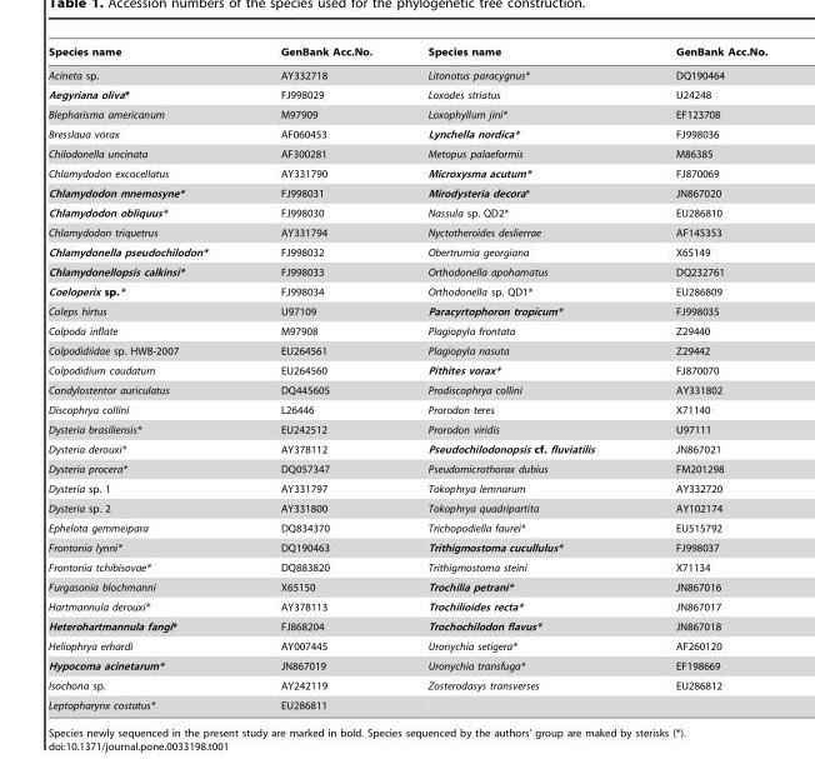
<table><thead><tr><td>Species name</td><td>GenBank Acc.No.</td><td>Species name</td><td>GenBank Acc.No.</td></tr></thead><tbody><tr><td>Acineta sp.</td><td>AY332718</td><td>Litonotus paracygnus*</td><td>DQ190464</td></tr><tr><td>Aegyriana oliva*</td><td>FJ998029</td><td>Loxodes striatus</td><td>U24248</td></tr><tr><td>Blepharisma americanum</td><td>M97909</td><td>Loxophyllum jini*</td><td>EF123708</td></tr><tr><td>Bresslaua vorax</td><td>AF060453</td><td>Lynchella nordica*</td><td>FJ998036</td></tr><tr><td>Chilodonella uncinata</td><td>AF300281</td><td>Metopus palaeformis</td><td>M86385</td></tr><tr><td>Chlamydodon excocellatus</td><td>AY331790</td><td>Microxysma acutum*</td><td>FJ870069</td></tr><tr><td>Chlamydodon mnemosyne*</td><td>FJ998031</td><td>Mirodysteria decora*</td><td>JN867020</td></tr><tr><td>Chlamydodon obliquus*</td><td>FJ998030</td><td>Nassula sp. QD2*</td><td>EU286810</td></tr><tr><td>Chlamydodon triquetrus</td><td>AY331794</td><td>Nyctotheroides deslierrae</td><td>AF145353</td></tr><tr><td>Chlamydonella pseudochilodon*</td><td>FJ998032</td><td>Obertrumia georgiana</td><td>X65149</td></tr><tr><td>Chlamydonellopsis calkinsi*</td><td>FJ998033</td><td>Orthodonella apohamatus</td><td>DQ232761</td></tr><tr><td>Coeloperix sp.*</td><td>FJ998034</td><td>Orthodonella sp. QD1*</td><td>EU286809</td></tr><tr><td>Coleps hirtus</td><td>U97109</td><td>Paracyrtophoron tropicum*</td><td>FJ998035</td></tr><tr><td>Colpoda inflate</td><td>M97908</td><td>Plagiopyla frontata</td><td>Z29440</td></tr><tr><td>Colpodidiidae sp. HWB-2007</td><td>EU264561</td><td>Plagiopyla nasuta</td><td>Z29442</td></tr><tr><td>Colpodidium caudatum</td><td>EU264560</td><td>Pithites vorax*</td><td>FJ870070</td></tr><tr><td>Condylostentor auriculatus</td><td>DQ445605</td><td>Prodiscophrya collini</td><td>AY331802</td></tr><tr><td>Discophrya collini</td><td>L26446</td><td>Prorodon teres</td><td>X71140</td></tr><tr><td>Dysteria brasiliensis*</td><td>EU242512</td><td>Prorodon viridis</td><td>U97111</td></tr><tr><td>Dysteria derouxi*</td><td>AY378112</td><td>Pseudochilodonopsis cf. fluviatilis</td><td>JN867021</td></tr><tr><td>Dysteria procera*</td><td>DQ057347</td><td>Pseudomicrothorax dubius</td><td>FM201298</td></tr><tr><td>Dysteria sp. 1</td><td>AY331797</td><td>Tokophrya lemnarum</td><td>AY332720</td></tr><tr><td>Dysteria sp. 2</td><td>AY331800</td><td>Tokophrya quadripartita</td><td>AY102174</td></tr><tr><td>Ephelota gemmeipara</td><td>DQ834370</td><td>Trichopodiella faurei*</td><td>EU515792</td></tr><tr><td>Frontonia lynni*</td><td>DQ190463</td><td>Trithigmostoma cucullulus*</td><td>FJ998037</td></tr><tr><td>Frontonia tchibisovae*</td><td>DQ883820</td><td>Trithigmostoma steini</td><td>X71134</td></tr><tr><td>Furgasonia blochmanni</td><td>X65150</td><td>Trochilia petrani*</td><td>JN867016</td></tr><tr><td>Hartmannula derouxi*</td><td>AY378113</td><td>Trochilioides recta*</td><td>JN867017</td></tr><tr><td>Heterohartmannula fangi*</td><td>FJ868204</td><td>Trochochilodon flavus*</td><td>JN867018</td></tr><tr><td>Heliophrya erhardi</td><td>AY007445</td><td>Uronychia setigera*</td><td>AF260120</td></tr><tr><td>Hypocoma acinetarum*</td><td>JN867019</td><td>Uronychia transfuga*</td><td>EF198669</td></tr><tr><td>Isochona sp.</td><td>AY242119</td><td>Zosterodasys transverses</td><td>EU286812</td></tr><tr><td>Leptopharynx costatus*</td><td>EU286811</td><td></td><td></td></tr></tbody></table>